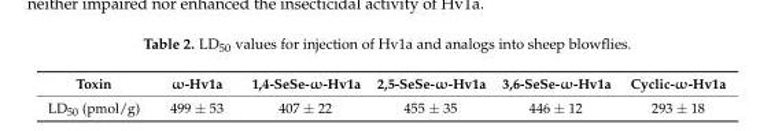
<table><thead><tr><td>Toxin</td><td>ω-Hv1a</td><td>1,4-SeSe-ω-Hv1a</td><td>2,5-SeSe-ω-Hv1a</td><td>3,6-SeSe-ω-Hv1a</td><td>Cyclic-ω-Hv1a</td></tr></thead><tbody><tr><td>LD<sub>50</sub> (pmol/g)</td><td>499 ± 53</td><td>407 ± 22</td><td>455 ± 35</td><td>446 ± 12</td><td>293 ± 18</td></tr></tbody></table>